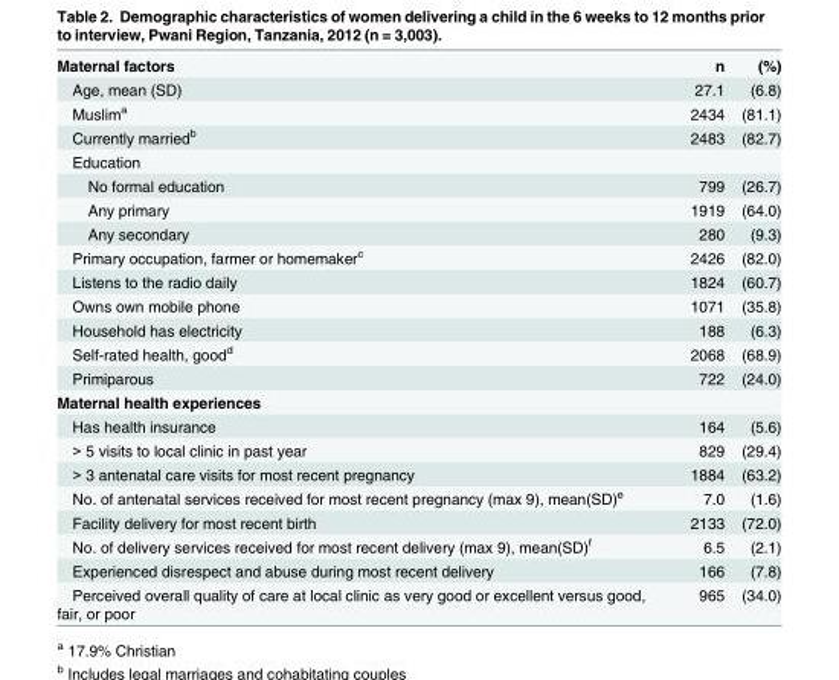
<table><tbody><tr><td>Maternal factors</td><td>n</td><td>(%)</td></tr><tr><td>Age, mean (SD)</td><td>27.1</td><td>(6.8)</td></tr><tr><td>Muslim<sup>a</sup></td><td>2434</td><td>(81.1)</td></tr><tr><td>Currently married<sup>b</sup></td><td>2483</td><td>(82.7)</td></tr><tr><td colspan="3">Education</td></tr><tr><td>No formal education</td><td>799</td><td>(26.7)</td></tr><tr><td>Any primary</td><td>1919</td><td>(64.0)</td></tr><tr><td>Any secondary</td><td>280</td><td>(9.3)</td></tr><tr><td>Primary occupation, farmer or homemaker<sup>c</sup></td><td>2426</td><td>(82.0)</td></tr><tr><td>Listens to the radio daily</td><td>1824</td><td>(60.7)</td></tr><tr><td>Owns own mobile phone</td><td>1071</td><td>(35.8)</td></tr><tr><td>Household has electricity</td><td>188</td><td>(6.3)</td></tr><tr><td>Self-rated health, good<sup>d</sup></td><td>2068</td><td>(68.9)</td></tr><tr><td>Primiparous</td><td>722</td><td>(24.0)</td></tr><tr><td colspan="3">Maternal health experiences</td></tr><tr><td>Has health insurance</td><td>164</td><td>(5.6)</td></tr><tr><td>&gt; 5 visits to local clinic in past year</td><td>829</td><td>(29.4)</td></tr><tr><td>&gt; 3 antenatal care visits for most recent pregnancy</td><td>1884</td><td>(63.2)</td></tr><tr><td>No. of antenatal services received for most recent pregnancy (max 9), mean(SD)<sup>e</sup></td><td>7.0</td><td>(1.6)</td></tr><tr><td>Facility delivery for most recent birth</td><td>2133</td><td>(72.0)</td></tr><tr><td>No. of delivery services received for most recent delivery (max 9), mean(SD)<sup>f</sup></td><td>6.5</td><td>(2.1)</td></tr><tr><td>Experienced disrespect and abuse during most recent delivery</td><td>166</td><td>(7.8)</td></tr><tr><td>Perceived overall quality of care at local clinic as very good or excellent versus good, fair, or poor</td><td>965</td><td>(34.0)</td></tr></tbody></table>